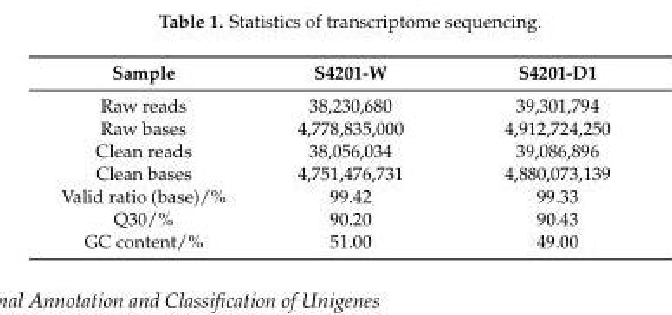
<table><thead><tr><td>Sample</td><td>S4201-W</td><td>S4201-D1</td></tr></thead><tbody><tr><td>Raw reads</td><td>38,230,680</td><td>39,301,794</td></tr><tr><td>Raw bases</td><td>4,778,835,000</td><td>4,912,724,250</td></tr><tr><td>Clean reads</td><td>38,056,034</td><td>39,086,896</td></tr><tr><td>Clean bases</td><td>4,751,476,731</td><td>4,880,073,139</td></tr><tr><td>Valid ratio (base)/%</td><td>99.42</td><td>99.33</td></tr><tr><td>Q30/%</td><td>90.20</td><td>90.43</td></tr><tr><td>GC content/%</td><td>51.00</td><td>49.00</td></tr></tbody></table>